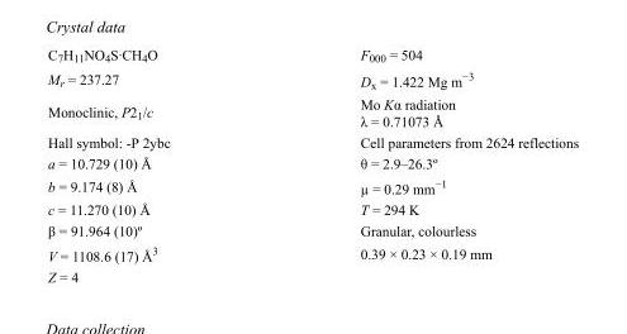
<table><tbody><tr><td>C<sub>7</sub>H<sub>11</sub>NO<sub>4</sub>S·CH<sub>4</sub>O</td><td>F000 = 504</td></tr><tr><td>M<sub>r</sub> = 237.27</td><td>D<sub>x</sub> = 1.422 Mg m<sup>−3</sup></td></tr><tr><td>Monoclinic, P2<sub>1</sub>/c</td><td>Mo Kα radiation λ = 0.71073 Å</td></tr><tr><td>Hall symbol: -P 2ybc</td><td>Cell parameters from 2624 reflections</td></tr><tr><td>a = 10.729 (10) Å</td><td>θ = 2.9–26.3º</td></tr><tr><td>b = 9.174 (8) Å</td><td>µ = 0.29 mm<sup>−1</sup></td></tr><tr><td>c = 11.270 (10) Å</td><td>T = 294 K</td></tr><tr><td>β = 91.964 (10)º</td><td>Granular, colourless</td></tr><tr><td>V = 1108.6 (17) Å<sup>3</sup></td><td>0.39 × 0.23 × 0.19 mm</td></tr><tr><td>Z = 4</td><td></td></tr></tbody></table>